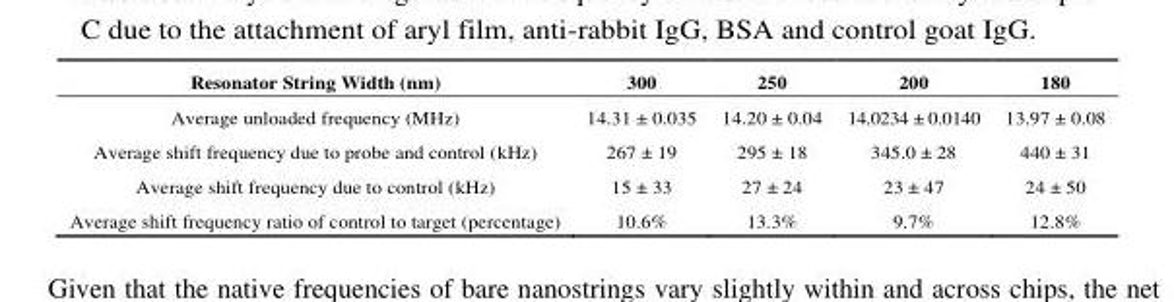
<table><thead><tr><td>Resonator String Width (nm)</td><td>300</td><td>250</td><td>200</td><td>180</td></tr></thead><tbody><tr><td>Average unloaded frequency (MHz)</td><td>14.31 ± 0.035</td><td>14.20 ± 0.04</td><td>14.0234 ± 0.0140</td><td>13.97 ± 0.08</td></tr><tr><td>Average shift frequency due to probe and control (kHz)</td><td>267 ± 19</td><td>295 ± 18</td><td>345.0 ± 28</td><td>440 ± 31</td></tr><tr><td>Average shift frequency due to control (kHz)</td><td>15 ± 33</td><td>27 ± 24</td><td>23 ± 47</td><td>24 ± 50</td></tr><tr><td>Average shift frequency ratio of control to target (percentage)</td><td>10.6%</td><td>13.3%</td><td>9.7%</td><td>12.8%</td></tr></tbody></table>